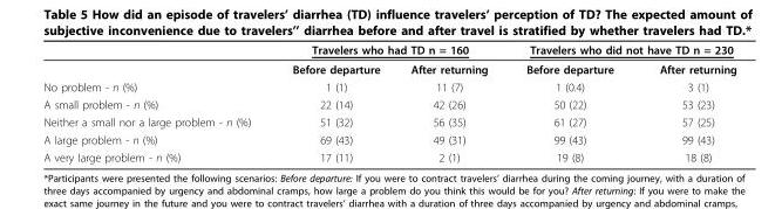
<table><thead><tr><td rowspan="2"></td><td colspan="2">Travelers who had TD n = 160</td><td colspan="2">Travelers who did not have TD n = 230</td></tr><tr><td>Before departure</td><td>After returning</td><td>Before departure</td><td>After returning</td></tr></thead><tbody><tr><td>No problem - n (%)</td><td>1 (1)</td><td>11 (7)</td><td>1 (0.4)</td><td>3 (1)</td></tr><tr><td>A small problem - n (%)</td><td>22 (14)</td><td>42 (26)</td><td>50 (22)</td><td>53 (23)</td></tr><tr><td>Neither a small nor a large problem - n (%)</td><td>51 (32)</td><td>56 (35)</td><td>61 (27)</td><td>57 (25)</td></tr><tr><td>A large problem - n (%)</td><td>69 (43)</td><td>49 (31)</td><td>99 (43)</td><td>99 (43)</td></tr><tr><td>A very large problem - n (%)</td><td>17 (11)</td><td>2 (1)</td><td>19 (8)</td><td>18 (8)</td></tr></tbody></table>